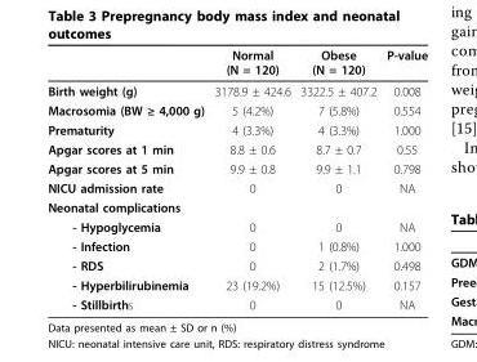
<table><thead><tr><td></td><td>Normal (N = 120)</td><td>Obese (N = 120)</td><td>P-value</td></tr></thead><tbody><tr><td>Birth weight (g)</td><td>3178.9 ± 424.6</td><td>3322.5 ± 407.2</td><td>0.008</td></tr><tr><td>Macrosomia (BW ≥ 4,000 g)</td><td>5 (4.2%)</td><td>7 (5.8%)</td><td>0.554</td></tr><tr><td>Prematurity</td><td>4 (3.3%)</td><td>4 (3.3%)</td><td>1.000</td></tr><tr><td>Apgar scores at 1 min</td><td>8.8 ± 0.6</td><td>8.7 ± 0.7</td><td>0.55</td></tr><tr><td>Apgar scores at 5 min</td><td>9.9 ± 0.8</td><td>9.9 ± 1.1</td><td>0.798</td></tr><tr><td>NICU admission rate</td><td>0</td><td>0</td><td>NA</td></tr><tr><td colspan="4">Neonatal complications</td></tr><tr><td>- Hypoglycemia</td><td>0</td><td>0</td><td>NA</td></tr><tr><td>- Infection</td><td>0</td><td>1 (0.8%)</td><td>1.000</td></tr><tr><td>- RDS</td><td>0</td><td>2 (1.7%)</td><td>0.498</td></tr><tr><td>- Hyperbilirubinemia</td><td>23 (19.2%)</td><td>15 (12.5%)</td><td>0.157</td></tr><tr><td>- Stillbirths</td><td>0</td><td>0</td><td>NA</td></tr></tbody></table>